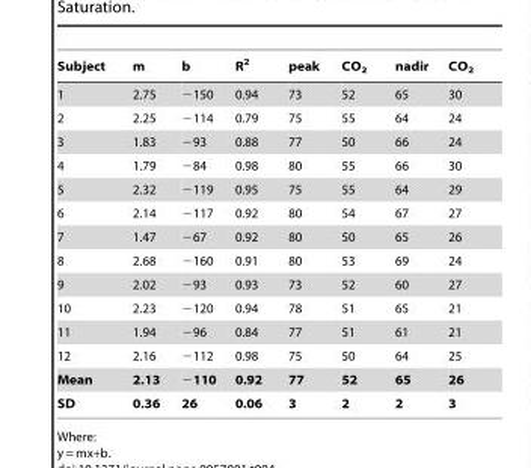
<table><thead><tr><td>Subject</td><td>m</td><td>b</td><td>R<sup>2</sup></td><td>peak</td><td>CO<sub>2</sub></td><td>nadir</td><td>CO<sub>2</sub></td></tr></thead><tbody><tr><td>1</td><td>2.75</td><td>−150</td><td>0.94</td><td>73</td><td>52</td><td>65</td><td>30</td></tr><tr><td>2</td><td>2.25</td><td>−114</td><td>0.79</td><td>75</td><td>55</td><td>64</td><td>24</td></tr><tr><td>3</td><td>1.83</td><td>−93</td><td>0.88</td><td>77</td><td>50</td><td>66</td><td>24</td></tr><tr><td>4</td><td>1.79</td><td>−84</td><td>0.98</td><td>80</td><td>55</td><td>66</td><td>30</td></tr><tr><td>5</td><td>2.32</td><td>−119</td><td>0.95</td><td>75</td><td>55</td><td>64</td><td>29</td></tr><tr><td>6</td><td>2.14</td><td>−117</td><td>0.92</td><td>80</td><td>54</td><td>67</td><td>27</td></tr><tr><td>7</td><td>1.47</td><td>−67</td><td>0.92</td><td>80</td><td>50</td><td>65</td><td>26</td></tr><tr><td>8</td><td>2.68</td><td>−160</td><td>0.91</td><td>80</td><td>53</td><td>69</td><td>24</td></tr><tr><td>9</td><td>2.02</td><td>−93</td><td>0.93</td><td>73</td><td>52</td><td>60</td><td>27</td></tr><tr><td>10</td><td>2.23</td><td>−120</td><td>0.94</td><td>78</td><td>51</td><td>65</td><td>21</td></tr><tr><td>11</td><td>1.94</td><td>−96</td><td>0.84</td><td>77</td><td>51</td><td>61</td><td>21</td></tr><tr><td>12</td><td>2.16</td><td>−112</td><td>0.98</td><td>75</td><td>50</td><td>64</td><td>25</td></tr><tr><td>Mean</td><td>2.13</td><td>−110</td><td>0.92</td><td>77</td><td>52</td><td>65</td><td>26</td></tr><tr><td>SD</td><td>0.36</td><td>26</td><td>0.06</td><td>3</td><td>2</td><td>2</td><td>3</td></tr></tbody></table>